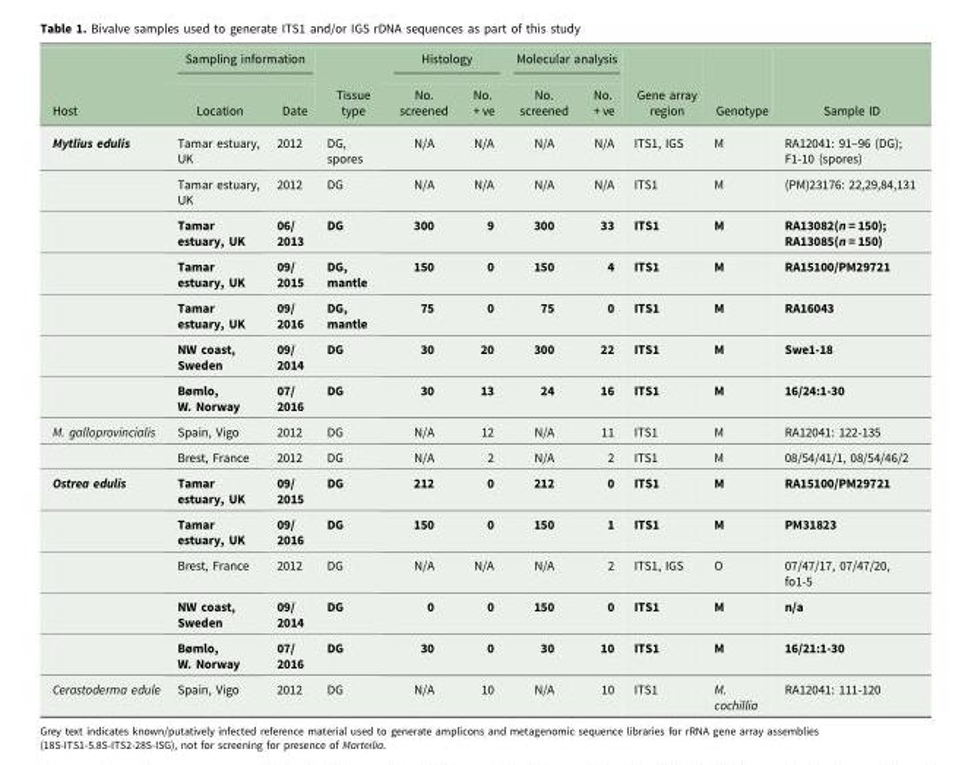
<table><thead><tr><td rowspan="2">Host</td><td colspan="2">Sampling information</td><td rowspan="2">Tissue type</td><td colspan="2">Histology</td><td colspan="2">Molecular analysis</td><td rowspan="2">Gene array region</td><td rowspan="2">Genotype</td><td rowspan="2">Sample ID</td></tr><tr><td>Location</td><td>Date</td><td>No. screened</td><td>No. + ve</td><td>No. screened</td><td>No. + ve</td></tr></thead><tbody><tr><td rowspan="7">Mytlius edulis</td><td>Tamar estuary, UK</td><td>2012</td><td>DG, spores</td><td>N/A</td><td>N/A</td><td>N/A</td><td>N/A</td><td>ITS1, IGS</td><td>M</td><td>RA12041: 91–96 (DG); F1-10 (spores)</td></tr><tr><td>Tamar estuary, UK</td><td>2012</td><td>DG</td><td>N/A</td><td>N/A</td><td>N/A</td><td>N/A</td><td>ITS1</td><td>M</td><td>(PM)23176: 22,29,84,131</td></tr><tr><td>Tamar estuary, UK</td><td>06/ 2013</td><td>DG</td><td>300</td><td>9</td><td>300</td><td>33</td><td>ITS1</td><td>M</td><td>RA13082(n = 150); RA13085(n = 150)</td></tr><tr><td>Tamar estuary, UK</td><td>09/ 2015</td><td>DG, mantle</td><td>150</td><td>0</td><td>150</td><td>4</td><td>ITS1</td><td>M</td><td>RA15100/PM29721</td></tr><tr><td>Tamar estuary, UK</td><td>09/ 2016</td><td>DG, mantle</td><td>75</td><td>0</td><td>75</td><td>0</td><td>ITS1</td><td>M</td><td>RA16043</td></tr><tr><td>NW coast, Sweden</td><td>09/ 2014</td><td>DG</td><td>30</td><td>20</td><td>300</td><td>22</td><td>ITS1</td><td>M</td><td>Swe1-18</td></tr><tr><td>Bømlo, W. Norway</td><td>07/ 2016</td><td>DG</td><td>30</td><td>13</td><td>24</td><td>16</td><td>ITS1</td><td>M</td><td>16/24:1-30</td></tr><tr><td rowspan="2">M. galloprovincialis</td><td>Spain, Vigo</td><td>2012</td><td>DG</td><td>N/A</td><td>12</td><td>N/A</td><td>11</td><td>ITS1</td><td>M</td><td>RA12041: 122-135</td></tr><tr><td>Brest, France</td><td>2012</td><td>DG</td><td>N/A</td><td>2</td><td>N/A</td><td>2</td><td>ITS1</td><td>M</td><td>08/54/41/1, 08/54/46/2</td></tr><tr><td rowspan="5">Ostrea edulis</td><td>Tamar estuary, UK</td><td>09/ 2015</td><td>DG</td><td>212</td><td>0</td><td>212</td><td>0</td><td>ITS1</td><td>M</td><td>RA15100/PM29721</td></tr><tr><td>Tamar estuary, UK</td><td>09/ 2016</td><td>DG</td><td>150</td><td>0</td><td>150</td><td>1</td><td>ITS1</td><td>M</td><td>PM31823</td></tr><tr><td>Brest, France</td><td>2012</td><td>DG</td><td>N/A</td><td>N/A</td><td>N/A</td><td>2</td><td>ITS1, IGS</td><td>O</td><td>07/47/17, 07/47/20, fo1-5</td></tr><tr><td>NW coast, Sweden</td><td>09/ 2014</td><td>DG</td><td>0</td><td>0</td><td>150</td><td>0</td><td>ITS1</td><td>M</td><td>n/a</td></tr><tr><td>Bømlo, W. Norway</td><td>07/ 2016</td><td>DG</td><td>30</td><td>0</td><td>30</td><td>10</td><td>ITS1</td><td>M</td><td>16/21:1-30</td></tr><tr><td>Cerastoderma edule</td><td>Spain, Vigo</td><td>2012</td><td>DG</td><td>N/A</td><td>10</td><td>N/A</td><td>10</td><td>ITS1</td><td>M. cochillia</td><td>RA12041: 111-120</td></tr></tbody></table>